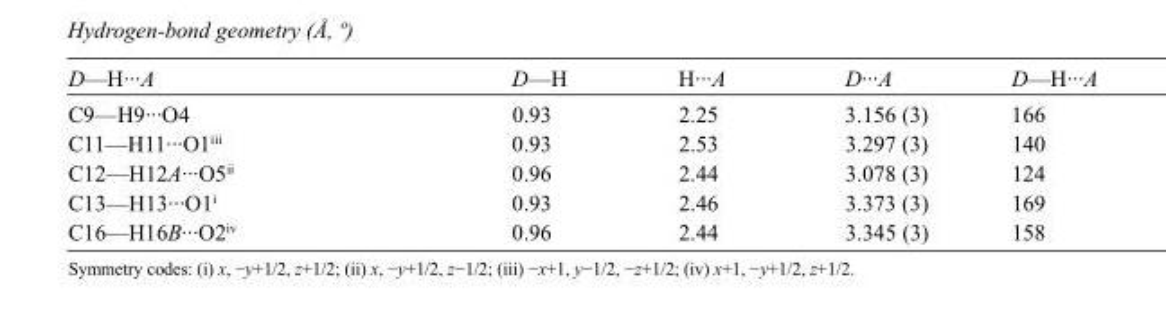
<table><tbody><tr><td>D—H···A</td><td>D—H</td><td>H···A</td><td>D···A</td><td>D—H···A</td></tr><tr><td>C9—H9···O4</td><td>0.93</td><td>2.25</td><td>3.156 (3)</td><td>166</td></tr><tr><td>C11—H11···O1<sup>iii</sup></td><td>0.93</td><td>2.53</td><td>3.297 (3)</td><td>140</td></tr><tr><td>C12—H12A···O5<sup>ii</sup></td><td>0.96</td><td>2.44</td><td>3.078 (3)</td><td>124</td></tr><tr><td>C13—H13···O1<sup>i</sup></td><td>0.93</td><td>2.46</td><td>3.373 (3)</td><td>169</td></tr><tr><td>C16—H16B···O2<sup>iv</sup></td><td>0.96</td><td>2.44</td><td>3.345 (3)</td><td>158</td></tr></tbody></table>